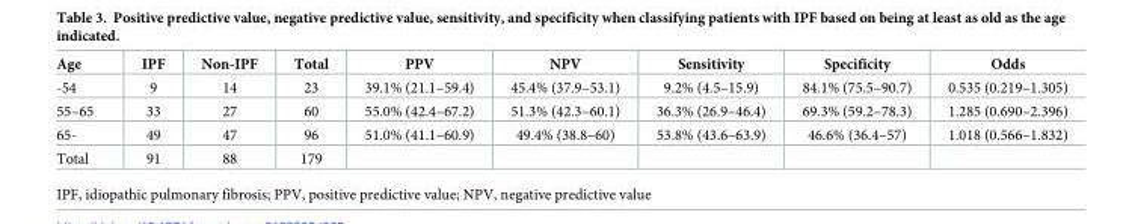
<table><thead><tr><td>Age</td><td>IPF</td><td>Non-IPF</td><td>Total</td><td>PPV</td><td>NPV</td><td>Sensitivity</td><td>Specificity</td><td>Odds</td></tr></thead><tbody><tr><td>-54</td><td>9</td><td>14</td><td>23</td><td>39.1% (21.1–59.4)</td><td>45.4% (37.9–53.1)</td><td>9.2% (4.5–15.9)</td><td>84.1% (75.5–90.7)</td><td>0.535 (0.219–1.305)</td></tr><tr><td>55–65</td><td>33</td><td>27</td><td>60</td><td>55.0% (42.4–67.2)</td><td>51.3% (42.3–60.1)</td><td>36.3% (26.9–46.4)</td><td>69.3% (59.2–78.3)</td><td>1.285 (0.690–2.396)</td></tr><tr><td>65-</td><td>49</td><td>47</td><td>96</td><td>51.0% (41.1–60.9)</td><td>49.4% (38.8–60)</td><td>53.8% (43.6–63.9)</td><td>46.6% (36.4–57)</td><td>1.018 (0.566–1.832)</td></tr><tr><td>Total</td><td>91</td><td>88</td><td>179</td><td></td><td></td><td></td><td></td><td></td></tr></tbody></table>